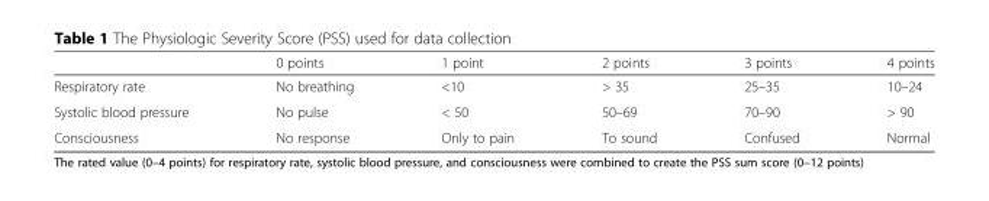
<table><thead><tr><td></td><td>0 points</td><td>1 point</td><td>2 points</td><td>3 points</td><td>4 points</td></tr></thead><tbody><tr><td>Respiratory rate</td><td>No breathing</td><td>&lt;10</td><td>&gt; 35</td><td>25–35</td><td>10–24</td></tr><tr><td>Systolic blood pressure</td><td>No pulse</td><td>&lt; 50</td><td>50–69</td><td>70–90</td><td>&gt; 90</td></tr><tr><td>Consciousness</td><td>No response</td><td>Only to pain</td><td>To sound</td><td>Confused</td><td>Normal</td></tr></tbody></table>